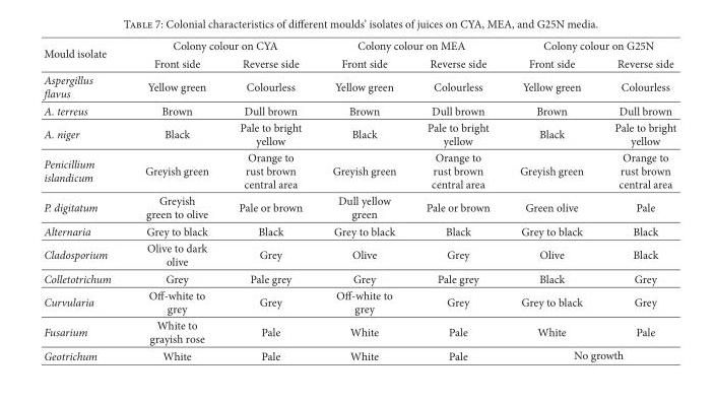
<table><thead><tr><td rowspan="2">Mould isolate</td><td colspan="2">Colony colour on CYA</td><td colspan="2">Colony colour on MEA</td><td colspan="2">Colony colour on G25N</td></tr><tr><td>Front side</td><td>Reverse side</td><td>Front side</td><td>Reverse side</td><td>Front side</td><td>Reverse side</td></tr></thead><tbody><tr><td>Aspergillus flavus</td><td>Yellow green</td><td>Colourless</td><td>Yellow green</td><td>Colourless</td><td>Yellow green</td><td>Colourless</td></tr><tr><td>A. terreus</td><td>Brown</td><td>Dull brown</td><td>Brown</td><td>Dull brown</td><td>Brown</td><td>Dull brown</td></tr><tr><td>A. niger</td><td>Black</td><td>Pale to bright yellow</td><td>Black</td><td>Pale to bright yellow</td><td>Black</td><td>Pale to bright yellow</td></tr><tr><td>Penicillium islandicum</td><td>Greyish green</td><td>Orange to rust brown central area</td><td>Greyish green</td><td>Orange to rust brown central area</td><td>Greyish green</td><td>Orange to rust brown central area</td></tr><tr><td>P. digitatum</td><td>Greyish green to olive</td><td>Pale or brown</td><td>Dull yellow green</td><td>Pale or brown</td><td>Green olive</td><td>Pale</td></tr><tr><td>Alternaria</td><td>Grey to black</td><td>Black</td><td>Grey to black</td><td>Black</td><td>Grey to black</td><td>Black</td></tr><tr><td>Cladosporium</td><td>Olive to dark olive</td><td>Grey</td><td>Olive</td><td>Grey</td><td>Olive</td><td>Black</td></tr><tr><td>Colletotrichum</td><td>Grey</td><td>Pale grey</td><td>Grey</td><td>Pale grey</td><td>Black</td><td>Grey</td></tr><tr><td>Curvularia</td><td>Off-white to grey</td><td>Grey</td><td>Off-white to grey</td><td>Grey</td><td>Grey to black</td><td>Grey</td></tr><tr><td>Fusarium</td><td>White to grayish rose</td><td>Pale</td><td>White</td><td>Pale</td><td>White</td><td>Pale</td></tr><tr><td>Geotrichum</td><td>White</td><td>Pale</td><td>White</td><td>Pale</td><td colspan="2">No growth</td></tr></tbody></table>